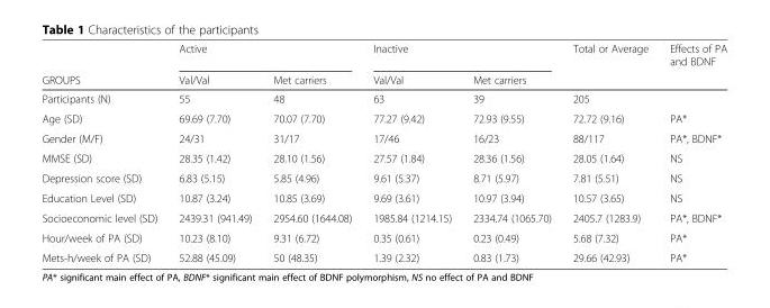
<table><thead><tr><td rowspan="2">GROUPS</td><td colspan="2">Active</td><td colspan="2">Inactive</td><td rowspan="2">Total or Average</td><td rowspan="2">Effects of PA and BDNF</td></tr><tr><td>Val/Val</td><td>Met carriers</td><td>Val/Val</td><td>Met carriers</td></tr></thead><tbody><tr><td>Participants (N)</td><td>55</td><td>48</td><td>63</td><td>39</td><td>205</td><td></td></tr><tr><td>Age (SD)</td><td>69.69 (7.70)</td><td>70.07 (7.70)</td><td>77.27 (9.42)</td><td>72.93 (9.55)</td><td>72.72 (9.16)</td><td>PA*</td></tr><tr><td>Gender (M/F)</td><td>24/31</td><td>31/17</td><td>17/46</td><td>16/23</td><td>88/117</td><td>PA*, BDNF*</td></tr><tr><td>MMSE (SD)</td><td>28.35 (1.42)</td><td>28.10 (1.56)</td><td>27.57 (1.84)</td><td>28.36 (1.56)</td><td>28.05 (1.64)</td><td>NS</td></tr><tr><td>Depression score (SD)</td><td>6.83 (5.15)</td><td>5.85 (4.96)</td><td>9.61 (5.37)</td><td>8.71 (5.97)</td><td>7.81 (5.51)</td><td>NS</td></tr><tr><td>Education Level (SD)</td><td>10.87 (3.24)</td><td>10.85 (3.69)</td><td>9.69 (3.61)</td><td>10.97 (3.94)</td><td>10.57 (3.65)</td><td>NS</td></tr><tr><td>Socioeconomic level (SD)</td><td>2439.31 (941.49)</td><td>2954.60 (1644.08)</td><td>1985.84 (1214.15)</td><td>2334.74 (1065.70)</td><td>2405.7 (1283.9)</td><td>PA*, BDNF*</td></tr><tr><td>Hour/week of PA (SD)</td><td>10.23 (8.10)</td><td>9.31 (6.72)</td><td>0.35 (0.61)</td><td>0.23 (0.49)</td><td>5.68 (7.32)</td><td>PA*</td></tr><tr><td>Mets-h/week of PA (SD)</td><td>52.88 (45.09)</td><td>50 (48.35)</td><td>1.39 (2.32)</td><td>0.83 (1.73)</td><td>29.66 (42.93)</td><td>PA*</td></tr></tbody></table>